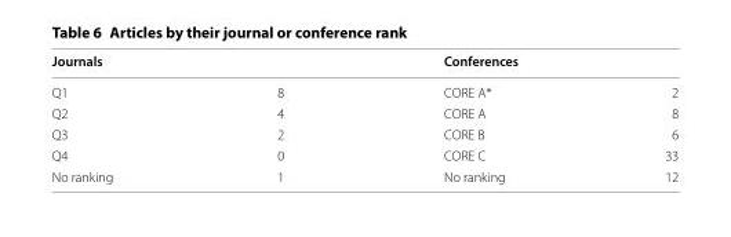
<table><thead><tr><td colspan="2">Journals</td><td colspan="2">Conferences</td></tr><tr><td>Q1</td><td>8</td><td>CORE A*</td><td>2</td></tr></thead><tbody><tr><td>Q2</td><td>4</td><td>CORE A</td><td>8</td></tr><tr><td>Q3</td><td>2</td><td>CORE B</td><td>6</td></tr><tr><td>Q4</td><td>0</td><td>CORE C</td><td>33</td></tr><tr><td>No ranking</td><td>1</td><td>No ranking</td><td>12</td></tr></tbody></table>